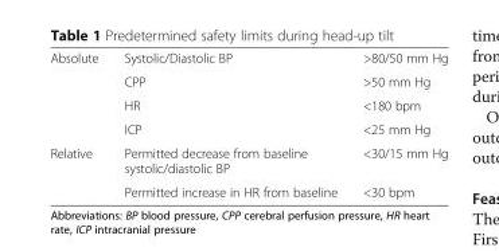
<table><tbody><tr><td rowspan="4">Absolute</td><td>Systolic/Diastolic BP</td><td>&gt;80/50 mm Hg</td></tr><tr><td>CPP</td><td>&gt;50 mm Hg</td></tr><tr><td>HR</td><td>&lt;180 bpm</td></tr><tr><td>ICP</td><td>&lt;25 mm Hg</td></tr><tr><td rowspan="2">Relative</td><td>Permitted decrease from baseline systolic/diastolic BP</td><td>&lt;30/15 mm Hg</td></tr><tr><td>Permitted increase in HR from baseline</td><td>&lt;30 bpm</td></tr></tbody></table>